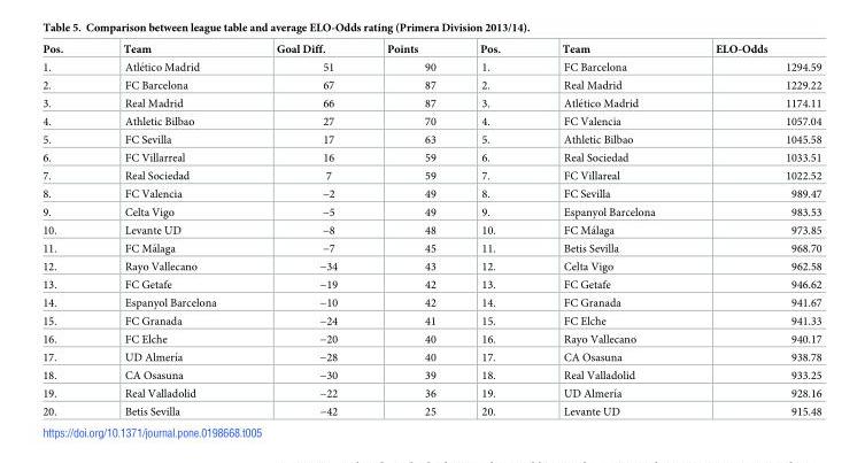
<table><thead><tr><td>Pos.</td><td>Team</td><td>Goal Diff.</td><td>Points</td><td>Pos.</td><td>Team</td><td>ELO-Odds</td></tr></thead><tbody><tr><td>1.</td><td>Atle´tico Madrid</td><td>51</td><td>90</td><td>1.</td><td>FC Barcelona</td><td>1294.59</td></tr><tr><td>2.</td><td>FC Barcelona</td><td>67</td><td>87</td><td>2.</td><td>Real Madrid</td><td>1229.22</td></tr><tr><td>3.</td><td>Real Madrid</td><td>66</td><td>87</td><td>3.</td><td>Atle´tico Madrid</td><td>1174.11</td></tr><tr><td>4.</td><td>Athletic Bilbao</td><td>27</td><td>70</td><td>4.</td><td>FC Valencia</td><td>1057.04</td></tr><tr><td>5.</td><td>FC Sevilla</td><td>17</td><td>63</td><td>5.</td><td>Athletic Bilbao</td><td>1045.58</td></tr><tr><td>6.</td><td>FC Villarreal</td><td>16</td><td>59</td><td>6.</td><td>Real Sociedad</td><td>1033.51</td></tr><tr><td>7.</td><td>Real Sociedad</td><td>7</td><td>59</td><td>7.</td><td>FC Villareal</td><td>1022.52</td></tr><tr><td>8.</td><td>FC Valencia</td><td>−2</td><td>49</td><td>8.</td><td>FC Sevilla</td><td>989.47</td></tr><tr><td>9.</td><td>Celta Vigo</td><td>−5</td><td>49</td><td>9.</td><td>Espanyol Barcelona</td><td>983.53</td></tr><tr><td>10.</td><td>Levante UD</td><td>−8</td><td>48</td><td>10.</td><td>FC Ma´laga</td><td>973.85</td></tr><tr><td>11.</td><td>FC Ma´laga</td><td>−7</td><td>45</td><td>11.</td><td>Betis Sevilla</td><td>968.70</td></tr><tr><td>12.</td><td>Rayo Vallecano</td><td>−34</td><td>43</td><td>12.</td><td>Celta Vigo</td><td>962.58</td></tr><tr><td>13.</td><td>FC Getafe</td><td>−19</td><td>42</td><td>13.</td><td>FC Getafe</td><td>946.62</td></tr><tr><td>14.</td><td>Espanyol Barcelona</td><td>−10</td><td>42</td><td>14.</td><td>FC Granada</td><td>941.67</td></tr><tr><td>15.</td><td>FC Granada</td><td>−24</td><td>41</td><td>15.</td><td>FC Elche</td><td>941.33</td></tr><tr><td>16.</td><td>FC Elche</td><td>−20</td><td>40</td><td>16.</td><td>Rayo Vallecano</td><td>940.17</td></tr><tr><td>17.</td><td>UD Almerı´a</td><td>−28</td><td>40</td><td>17.</td><td>CA Osasuna</td><td>938.78</td></tr><tr><td>18.</td><td>CA Osasuna</td><td>−30</td><td>39</td><td>18.</td><td>Real Valladolid</td><td>933.25</td></tr><tr><td>19.</td><td>Real Valladolid</td><td>−22</td><td>36</td><td>19.</td><td>UD Almerı´a</td><td>928.16</td></tr><tr><td>20.</td><td>Betis Sevilla</td><td>−42</td><td>25</td><td>20.</td><td>Levante UD</td><td>915.48</td></tr></tbody></table>